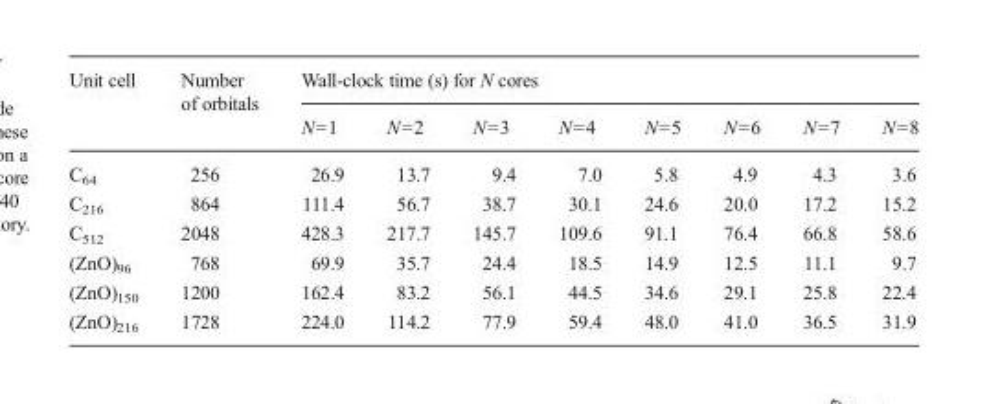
<table><thead><tr><td rowspan="2">Unit cell</td><td rowspan="2">Number of orbitals</td><td colspan="8">Wall-clock time (s) for N cores</td></tr><tr><td>N=1</td><td>N=2</td><td>N=3</td><td>N=4</td><td>N=5</td><td>N=6</td><td>N=7</td><td>N=8</td></tr></thead><tbody><tr><td>C<sub>64</sub></td><td>256</td><td>26.9</td><td>13.7</td><td>9.4</td><td>7.0</td><td>5.8</td><td>4.9</td><td>4.3</td><td>3.6</td></tr><tr><td>C<sub>216</sub></td><td>864</td><td>111.4</td><td>56.7</td><td>38.7</td><td>30.1</td><td>24.6</td><td>20.0</td><td>17.2</td><td>15.2</td></tr><tr><td>C<sub>512</sub></td><td>2048</td><td>428.3</td><td>217.7</td><td>145.7</td><td>109.6</td><td>91.1</td><td>76.4</td><td>66.8</td><td>58.6</td></tr><tr><td>(ZnO)<sub>96</sub></td><td>768</td><td>69.9</td><td>35.7</td><td>24.4</td><td>18.5</td><td>14.9</td><td>12.5</td><td>11.1</td><td>9.7</td></tr><tr><td>(ZnO)<sub>150</sub></td><td>1200</td><td>162.4</td><td>83.2</td><td>56.1</td><td>44.5</td><td>34.6</td><td>29.1</td><td>25.8</td><td>22.4</td></tr><tr><td>(ZnO)<sub>216</sub></td><td>1728</td><td>224.0</td><td>114.2</td><td>77.9</td><td>59.4</td><td>48.0</td><td>41.0</td><td>36.5</td><td>31.9</td></tr></tbody></table>